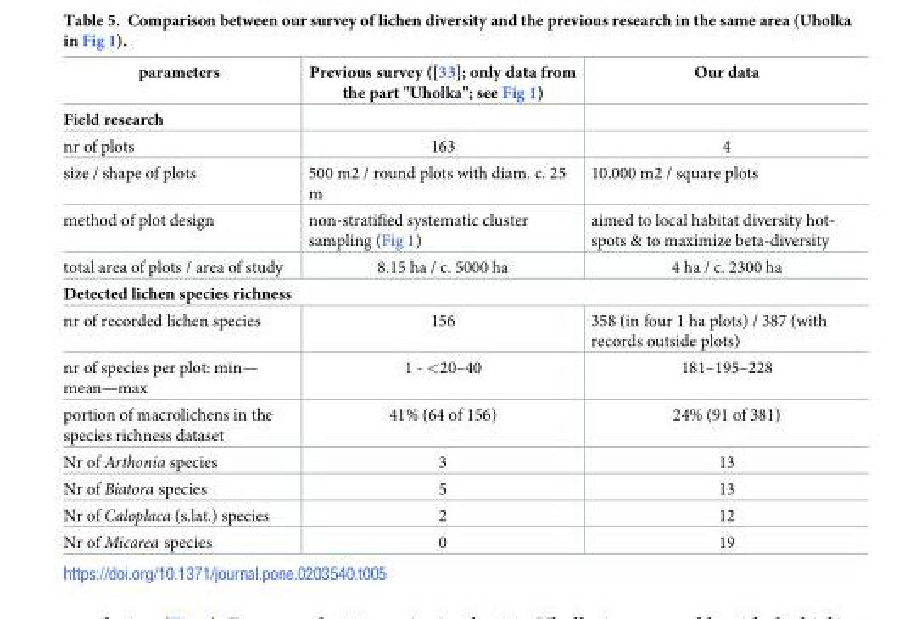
<table><thead><tr><td>parameters</td><td>Previous survey ([33]; only data from the part &quot;Uholka&quot;; see Fig 1)</td><td>Our data</td></tr></thead><tbody><tr><td colspan="3">Field research</td></tr><tr><td>nr of plots</td><td>163</td><td>4</td></tr><tr><td>size / shape of plots</td><td>500 m2 / round plots with diam. c. 25 m</td><td>10.000 m2 / square plots</td></tr><tr><td>method of plot design</td><td>non-stratified systematic cluster sampling (Fig 1)</td><td>aimed to local habitat diversity hot- spots &amp; to maximize beta-diversity</td></tr><tr><td>total area of plots / area of study</td><td>8.15 ha / c. 5000 ha</td><td>4 ha / c. 2300 ha</td></tr><tr><td colspan="3">Detected lichen species richness</td></tr><tr><td>nr of recorded lichen species</td><td>156</td><td>358 (in four 1 ha plots) / 387 (with records outside plots)</td></tr><tr><td>nr of species per plot: min— mean—max</td><td>1 - &lt;20–40</td><td>181–195–228</td></tr><tr><td>portion of macrolichens in the species richness dataset</td><td>41% (64 of 156)</td><td>24% (91 of 381)</td></tr><tr><td>Nr of Arthonia species</td><td>3</td><td>13</td></tr><tr><td>Nr of Biatora species</td><td>5</td><td>13</td></tr><tr><td>Nr of Caloplaca (s.lat.) species</td><td>2</td><td>12</td></tr><tr><td>Nr of Micarea species</td><td>0</td><td>19</td></tr></tbody></table>